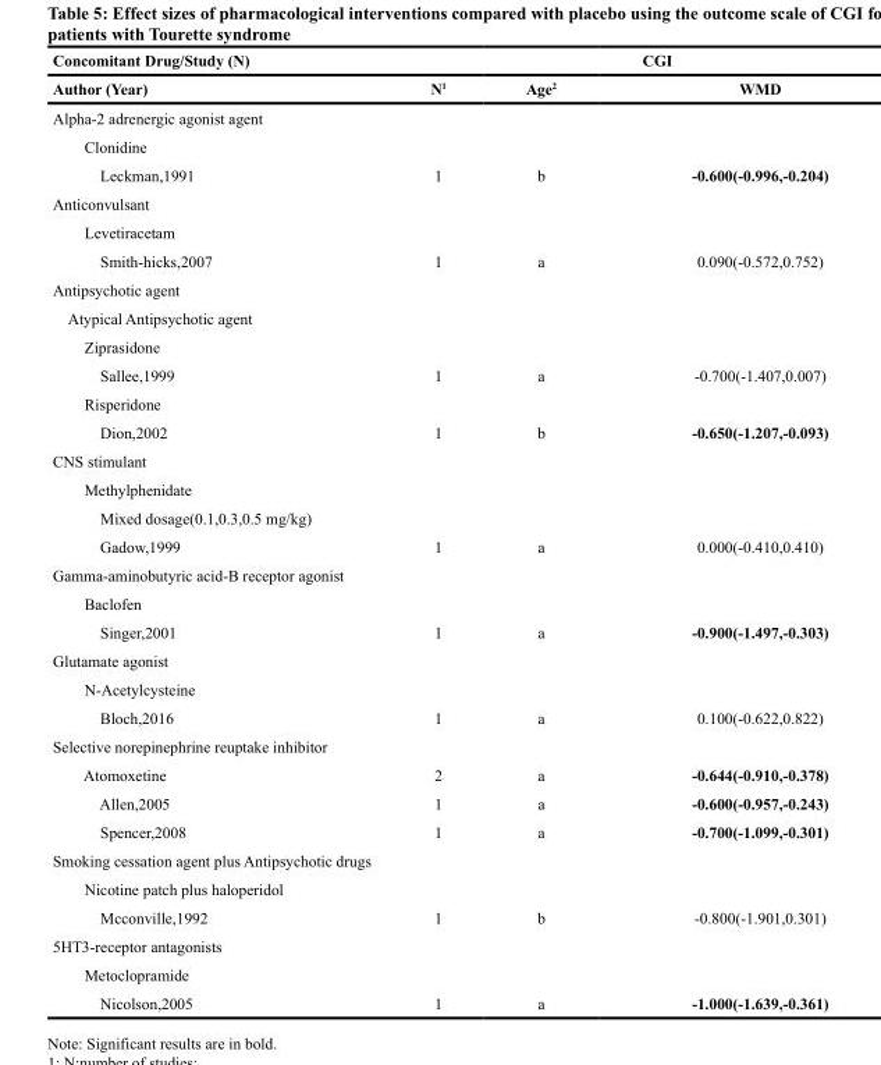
<table><thead><tr><td rowspan="2">Concomitant Drug/Study (N) Author (Year)</td><td colspan="3">CGI</td></tr><tr><td>N<sup>1</sup></td><td>Age<sup>2</sup></td><td>WMD</td></tr></thead><tbody><tr><td colspan="4">Alpha-2 adrenergic agonist agent</td></tr><tr><td colspan="4">Clonidine</td></tr><tr><td>Leckman,1991</td><td>1</td><td>b</td><td>-0.600(-0.996,-0.204)</td></tr><tr><td colspan="4">Anticonvulsant</td></tr><tr><td colspan="4">Levetiracetam</td></tr><tr><td>Smith-hicks,2007</td><td>1</td><td>a</td><td>0.090(-0.572,0.752)</td></tr><tr><td colspan="4">Antipsychotic agent</td></tr><tr><td colspan="4">Atypical Antipsychotic agent</td></tr><tr><td colspan="4">Ziprasidone</td></tr><tr><td>Sallee,1999</td><td>1</td><td>a</td><td>-0.700(-1.407,0.007)</td></tr><tr><td colspan="4">Risperidone</td></tr><tr><td>Dion,2002</td><td>1</td><td>b</td><td>-0.650(-1.207,-0.093)</td></tr><tr><td colspan="4">CNS stimulant</td></tr><tr><td colspan="4">Methylphenidate</td></tr><tr><td colspan="4">Mixed dosage(0.1,0.3,0.5 mg/kg)</td></tr><tr><td>Gadow,1999</td><td>1</td><td>a</td><td>0.000(-0.410,0.410)</td></tr><tr><td colspan="4">Gamma-aminobutyric acid-B receptor agonist</td></tr><tr><td colspan="4">Baclofen</td></tr><tr><td>Singer,2001</td><td>1</td><td>a</td><td>-0.900(-1.497,-0.303)</td></tr><tr><td colspan="4">Glutamate agonist</td></tr><tr><td colspan="4">N-Acetylcysteine</td></tr><tr><td>Bloch,2016</td><td>1</td><td>a</td><td>0.100(-0.622,0.822)</td></tr><tr><td colspan="4">Selective norepinephrine reuptake inhibitor</td></tr><tr><td>Atomoxetine</td><td>2</td><td>a</td><td>-0.644(-0.910,-0.378)</td></tr><tr><td>Allen,2005</td><td>1</td><td>a</td><td>-0.600(-0.957,-0.243)</td></tr><tr><td>Spencer,2008</td><td>1</td><td>a</td><td>-0.700(-1.099,-0.301)</td></tr><tr><td colspan="4">Smoking cessation agent plus Antipsychotic drugs</td></tr><tr><td colspan="4">Nicotine patch plus haloperidol</td></tr><tr><td>Mcconville,1992</td><td>1</td><td>b</td><td>-0.800(-1.901,0.301)</td></tr><tr><td colspan="4">5HT3-receptor antagonists</td></tr><tr><td colspan="4">Metoclopramide</td></tr><tr><td>Nicolson,2005</td><td>1</td><td>a</td><td>-1.000(-1.639,-0.361)</td></tr></tbody></table>